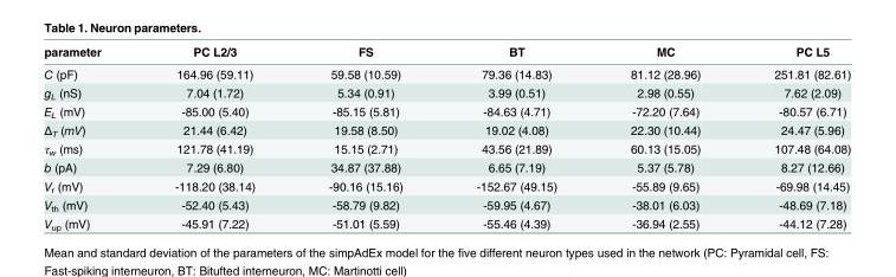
<table><thead><tr><td>parameter</td><td>PC L2/3</td><td>FS</td><td>BT</td><td>MC</td><td>PC L5</td></tr></thead><tbody><tr><td>C (pF)</td><td>164.96 (59.11)</td><td>59.58 (10.59)</td><td>79.36 (14.83)</td><td>81.12 (28.96)</td><td>251.81 (82.61)</td></tr><tr><td>g<sub>L</sub> (nS)</td><td>7.04 (1.72)</td><td>5.34 (0.91)</td><td>3.99 (0.51)</td><td>2.98 (0.55)</td><td>7.62 (2.09)</td></tr><tr><td>E<sub>L</sub> (mV)</td><td>-85.00 (5.40)</td><td>-85.15 (5.81)</td><td>-84.63 (4.71)</td><td>-72.20 (7.64)</td><td>-80.57 (6.71)</td></tr><tr><td>Δ<sub>T</sub> (mV)</td><td>21.44 (6.42)</td><td>19.58 (8.50)</td><td>19.02 (4.08)</td><td>22.30 (10.44)</td><td>24.47 (5.96)</td></tr><tr><td>τ<sub>w</sub> (ms)</td><td>121.78 (41.19)</td><td>15.15 (2.71)</td><td>43.56 (21.89)</td><td>60.13 (15.05)</td><td>107.48 (64.08)</td></tr><tr><td>b (pA)</td><td>7.29 (6.80)</td><td>34.87 (37.88)</td><td>6.65 (7.19)</td><td>5.37 (5.78)</td><td>8.27 (12.66)</td></tr><tr><td>V<sub>r</sub> (mV)</td><td>-118.20 (38.14)</td><td>-90.16 (15.16)</td><td>-152.67 (49.15)</td><td>-55.89 (9.65)</td><td>-69.98 (14.45)</td></tr><tr><td>V<sub>th</sub> (mV)</td><td>-52.40 (5.43)</td><td>-58.79 (9.82)</td><td>-59.95 (4.67)</td><td>-38.01 (6.03)</td><td>-48.69 (7.18)</td></tr><tr><td>V<sub>up</sub> (mV)</td><td>-45.91 (7.22)</td><td>-51.01 (5.59)</td><td>-55.46 (4.39)</td><td>-36.94 (2.55)</td><td>-44.12 (7.28)</td></tr></tbody></table>